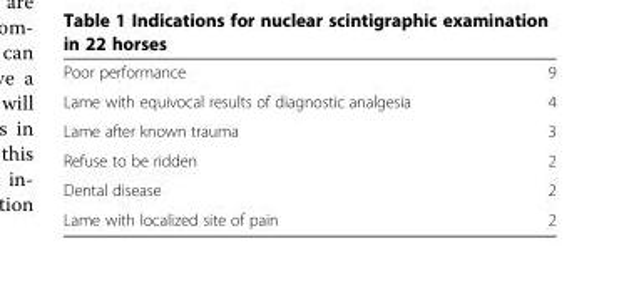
<table><tbody><tr><td>Poor performance</td><td>9</td></tr><tr><td>Lame with equivocal results of diagnostic analgesia</td><td>4</td></tr><tr><td>Lame after known trauma</td><td>3</td></tr><tr><td>Refuse to be ridden</td><td>2</td></tr><tr><td>Dental disease</td><td>2</td></tr><tr><td>Lame with localized site of pain</td><td>2</td></tr></tbody></table>